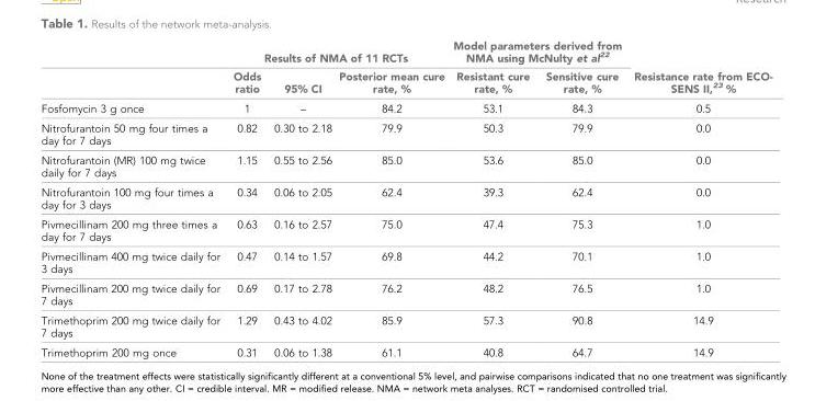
<table><thead><tr><td rowspan="2"></td><td colspan="3">Results of NMA of 11 RCTs</td><td colspan="2">Model parameters derived from NMA using McNulty et al<sup>22</sup></td><td rowspan="2">Resistance rate from ECO- SENS II,<sup>23</sup> %</td></tr><tr><td>Odds ratio</td><td>95% CI</td><td>Posterior mean cure rate, %</td><td>Resistant cure rate, %</td><td>Sensitive cure rate, %</td></tr></thead><tbody><tr><td>Fosfomycin 3 g once</td><td>1</td><td>–</td><td>84.2</td><td>53.1</td><td>84.3</td><td>0.5</td></tr><tr><td>Nitrofurantoin 50 mg four times a day for 7 days</td><td>0.82</td><td>0.30 to 2.18</td><td>79.9</td><td>50.3</td><td>79.9</td><td>0.0</td></tr><tr><td>Nitrofurantoin (MR) 100 mg twice daily for 7 days</td><td>1.15</td><td>0.55 to 2.56</td><td>85.0</td><td>53.6</td><td>85.0</td><td>0.0</td></tr><tr><td>Nitrofurantoin 100 mg four times a day for 3 days</td><td>0.34</td><td>0.06 to 2.05</td><td>62.4</td><td>39.3</td><td>62.4</td><td>0.0</td></tr><tr><td>Pivmecillinam 200 mg three times a day for 7 days</td><td>0.63</td><td>0.16 to 2.57</td><td>75.0</td><td>47.4</td><td>75.3</td><td>1.0</td></tr><tr><td>Pivmecillinam 400 mg twice daily for 3 days</td><td>0.47</td><td>0.14 to 1.57</td><td>69.8</td><td>44.2</td><td>70.1</td><td>1.0</td></tr><tr><td>Pivmecillinam 200 mg twice daily for 7 days</td><td>0.69</td><td>0.17 to 2.78</td><td>76.2</td><td>48.2</td><td>76.5</td><td>1.0</td></tr><tr><td>Trimethoprim 200 mg twice daily for 7 days</td><td>1.29</td><td>0.43 to 4.02</td><td>85.9</td><td>57.3</td><td>90.8</td><td>14.9</td></tr><tr><td>Trimethoprim 200 mg once</td><td>0.31</td><td>0.06 to 1.38</td><td>61.1</td><td>40.8</td><td>64.7</td><td>14.9</td></tr></tbody></table>